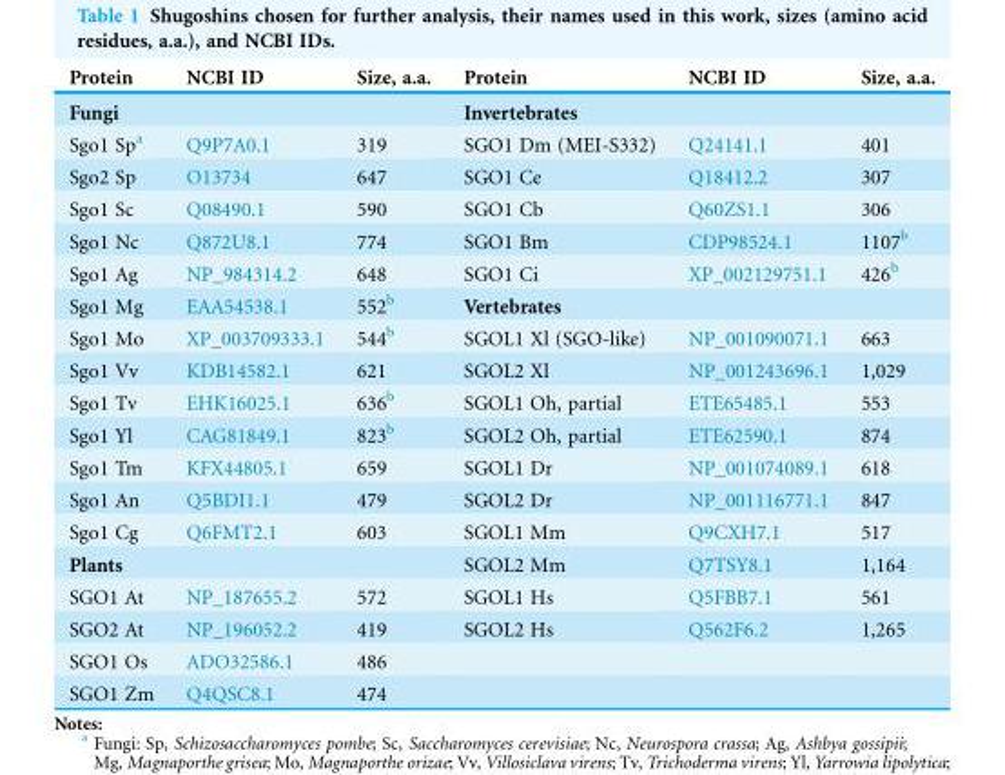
<table><thead><tr><td>Protein</td><td>NCBI ID</td><td>Size, a.a.</td><td>Protein</td><td>NCBI ID</td><td>Size, a.a.</td></tr></thead><tbody><tr><td colspan="3">Fungi</td><td colspan="3">Invertebrates</td></tr><tr><td>Sgo1 Sp<sup>a</sup></td><td>Q9P7A0.1</td><td>319</td><td>SGO1 Dm (MEI-S332)</td><td>Q24141.1</td><td>401</td></tr><tr><td>Sgo2 Sp</td><td>O13734</td><td>647</td><td>SGO1 Ce</td><td>Q18412.2</td><td>307</td></tr><tr><td>Sgo1 Sc</td><td>Q08490.1</td><td>590</td><td>SGO1 Cb</td><td>Q60ZS1.1</td><td>306</td></tr><tr><td>Sgo1 Nc</td><td>Q872U8.1</td><td>774</td><td>SGO1 Bm</td><td>CDP98524.1</td><td>1107<sup>b</sup></td></tr><tr><td>Sgo1 Ag</td><td>NP_984314.2</td><td>648</td><td>SGO1 Ci</td><td>XP_002129751.1</td><td>426<sup>b</sup></td></tr><tr><td>Sgo1 Mg</td><td>EAA54538.1</td><td>552<sup>b</sup></td><td colspan="3">Vertebrates</td></tr><tr><td>Sgo1 Mo</td><td>XP_003709333.1</td><td>544<sup>b</sup></td><td>SGOL1 Xl (SGO-like)</td><td>NP_001090071.1</td><td>663</td></tr><tr><td>Sgo1 Vv</td><td>KDB14582.1</td><td>621</td><td>SGOL2 Xl</td><td>NP_001243696.1</td><td>1,029</td></tr><tr><td>Sgo1 Tv</td><td>EHK16025.1</td><td>636<sup>b</sup></td><td>SGOL1 Oh, partial</td><td>ETE65485.1</td><td>553</td></tr><tr><td>Sgo1 Yl</td><td>CAG81849.1</td><td>823<sup>b</sup></td><td>SGOL2 Oh, partial</td><td>ETE62590.1</td><td>874</td></tr><tr><td>Sgo1 Tm</td><td>KFX44805.1</td><td>659</td><td>SGOL1 Dr</td><td>NP_001074089.1</td><td>618</td></tr><tr><td>Sgo1 An</td><td>Q5BDI1.1</td><td>479</td><td>SGOL2 Dr</td><td>NP_001116771.1</td><td>847</td></tr><tr><td>Sgo1 Cg</td><td>Q6FMT2.1</td><td>603</td><td>SGOL1 Mm</td><td>Q9CXH7.1</td><td>517</td></tr><tr><td colspan="3">Plants</td><td>SGOL2 Mm</td><td>Q7TSY8.1</td><td>1,164</td></tr><tr><td>SGO1 At</td><td>NP_187655.2</td><td>572</td><td>SGOL1 Hs</td><td>Q5FBB7.1</td><td>561</td></tr><tr><td>SGO2 At</td><td>NP_196052.2</td><td>419</td><td>SGOL2 Hs</td><td>Q562F6.2</td><td>1,265</td></tr><tr><td>SGO1 Os</td><td>ADO32586.1</td><td>486</td><td></td><td></td><td></td></tr><tr><td>SGO1 Zm</td><td>Q4QSC8.1</td><td>474</td><td></td><td></td><td></td></tr></tbody></table>